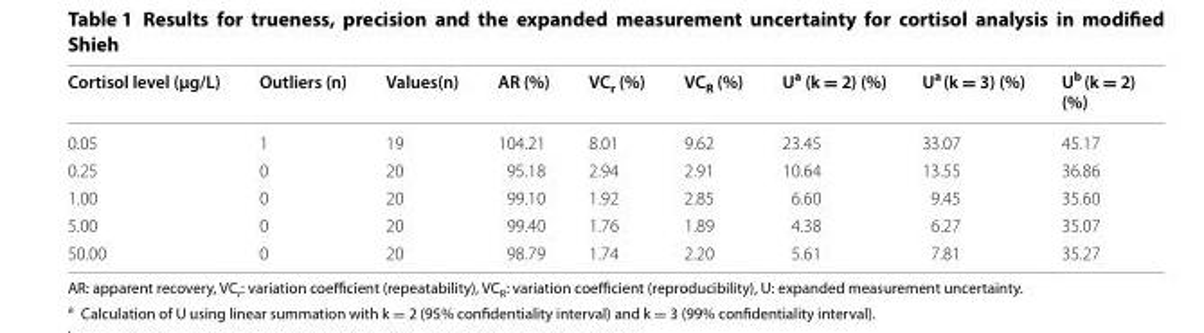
<table><thead><tr><td>Cortisol level (µg/L)</td><td>Outliers (n)</td><td>Values(n)</td><td>AR (%)</td><td>VC<sub>r</sub> (%)</td><td>VC<sub>R</sub> (%)</td><td>U<sup>a</sup> (k = 2) (%)</td><td>U<sup>a</sup> (k = 3) (%)</td><td>U<sup>b</sup> (k = 2) (%)</td></tr></thead><tbody><tr><td>0.05</td><td>1</td><td>19</td><td>104.21</td><td>8.01</td><td>9.62</td><td>23.45</td><td>33.07</td><td>45.17</td></tr><tr><td>0.25</td><td>0</td><td>20</td><td>95.18</td><td>2.94</td><td>2.91</td><td>10.64</td><td>13.55</td><td>36.86</td></tr><tr><td>1.00</td><td>0</td><td>20</td><td>99.10</td><td>1.92</td><td>2.85</td><td>6.60</td><td>9.45</td><td>35.60</td></tr><tr><td>5.00</td><td>0</td><td>20</td><td>99.40</td><td>1.76</td><td>1.89</td><td>4.38</td><td>6.27</td><td>35.07</td></tr><tr><td>50.00</td><td>0</td><td>20</td><td>98.79</td><td>1.74</td><td>2.20</td><td>5.61</td><td>7.81</td><td>35.27</td></tr></tbody></table>